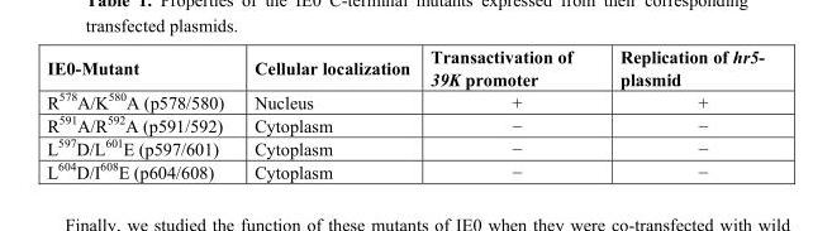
<table><thead><tr><td>IE0-Mutant</td><td>Cellular localization</td><td>Transactivation of 39K promoter</td><td>Replication of hr5- plasmid</td></tr></thead><tbody><tr><td>R<sup>578</sup>A/K<sup>580</sup>A (p578/580)</td><td>Nucleus</td><td>+</td><td>+</td></tr><tr><td>R<sup>591</sup>A/R<sup>592</sup>A (p591/592)</td><td>Cytoplasm</td><td>−</td><td>−</td></tr><tr><td>L<sup>597</sup>D/L<sup>601</sup>E (p597/601)</td><td>Cytoplasm</td><td>−</td><td>−</td></tr><tr><td>L<sup>604</sup>D/I<sup>608</sup>E (p604/608)</td><td>Cytoplasm</td><td>−</td><td>−</td></tr></tbody></table>